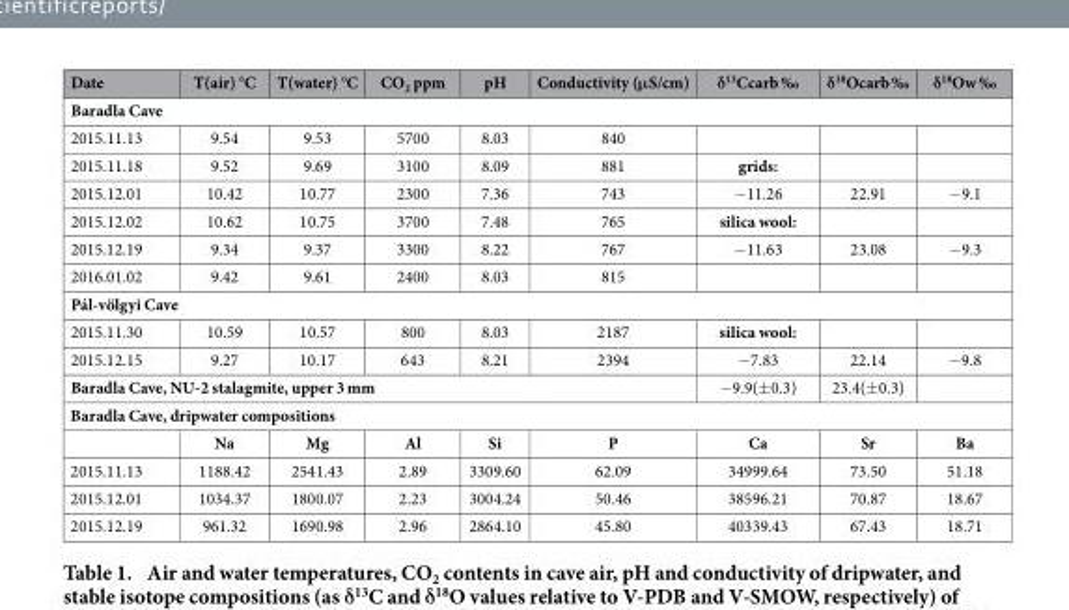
<table><thead><tr><td>Date</td><td>T(air) °C</td><td>T(water) °C</td><td>CO<sub>2</sub> ppm</td><td>pH</td><td>Conductivity (μS/cm)</td><td>δ<sup>13</sup>Ccarb ‰</td><td>δ<sup>18</sup>Ocarb ‰</td><td>δ<sup>18</sup>Ow ‰</td></tr></thead><tbody><tr><td colspan="9">Baradla Cave</td></tr><tr><td>2015.11.13</td><td>9.54</td><td>9.53</td><td>5700</td><td>8.03</td><td>840</td><td></td><td></td><td></td></tr><tr><td>2015.11.18</td><td>9.52</td><td>9.69</td><td>3100</td><td>8.09</td><td>881</td><td>grids:</td><td></td><td></td></tr><tr><td>2015.12.01</td><td>10.42</td><td>10.77</td><td>2300</td><td>7.36</td><td>743</td><td>− 11.26</td><td>22.91</td><td>− 9.1</td></tr><tr><td>2015.12.02</td><td>10.62</td><td>10.75</td><td>3700</td><td>7.48</td><td>765</td><td>silica wool:</td><td></td><td></td></tr><tr><td>2015.12.19</td><td>9.34</td><td>9.37</td><td>3300</td><td>8.22</td><td>767</td><td>− 11.63</td><td>23.08</td><td>− 9.3</td></tr><tr><td>2016.01.02</td><td>9.42</td><td>9.61</td><td>2400</td><td>8.03</td><td>815</td><td></td><td></td><td></td></tr><tr><td colspan="9">Pál-völgyi Cave</td></tr><tr><td>2015.11.30</td><td>10.59</td><td>10.57</td><td>800</td><td>8.03</td><td>2187</td><td>silica wool:</td><td></td><td></td></tr><tr><td>2015.12.15</td><td>9.27</td><td>10.17</td><td>643</td><td>8.21</td><td>2394</td><td>− 7.83</td><td>22.14</td><td>− 9.8</td></tr><tr><td colspan="6">Baradla Cave, NU-2 stalagmite, upper 3 mm</td><td>− 9.9(± 0.3)</td><td>23.4(± 0.3)</td><td></td></tr><tr><td colspan="9">Baradla Cave, dripwater compositions</td></tr><tr><td></td><td>Na</td><td>Mg</td><td>Al</td><td>Si</td><td>P</td><td>Ca</td><td>Sr</td><td>Ba</td></tr><tr><td>2015.11.13</td><td>1188.42</td><td>2541.43</td><td>2.89</td><td>3309.60</td><td>62.09</td><td>34999.64</td><td>73.50</td><td>51.18</td></tr><tr><td>2015.12.01</td><td>1034.37</td><td>1800.07</td><td>2.23</td><td>3004.24</td><td>50.46</td><td>38596.21</td><td>70.87</td><td>18.67</td></tr><tr><td>2015.12.19</td><td>961.32</td><td>1690.98</td><td>2.96</td><td>2864.10</td><td>45.80</td><td>40339.43</td><td>67.43</td><td>18.71</td></tr></tbody></table>